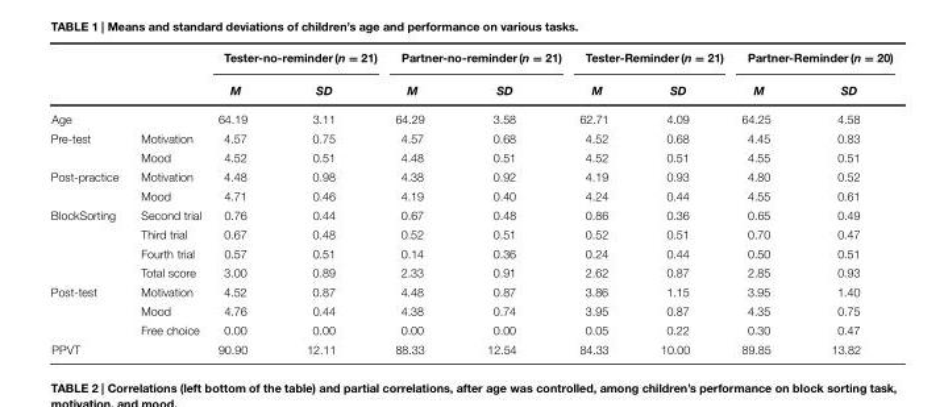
<table><thead><tr><td rowspan="2"></td><td rowspan="2"></td><td colspan="2">Tester-no-reminder(n = 21)</td><td colspan="2">Partner-no-reminder(n = 21)</td><td colspan="2">Tester-Reminder (n = 21)</td><td colspan="2">Partner-Reminder (n = 20)</td></tr><tr><td>M</td><td>SD</td><td>M</td><td>SD</td><td>M</td><td>SD</td><td>M</td><td>SD</td></tr></thead><tbody><tr><td colspan="2">Age</td><td>64.19</td><td>3.11</td><td>64.29</td><td>3.58</td><td>62.71</td><td>4.09</td><td>64.25</td><td>4.58</td></tr><tr><td rowspan="2">Pre-test</td><td>Motivation</td><td>4.57</td><td>0.75</td><td>4.57</td><td>0.68</td><td>4.52</td><td>0.68</td><td>4.45</td><td>0.83</td></tr><tr><td>Mood</td><td>4.52</td><td>0.51</td><td>4.48</td><td>0.51</td><td>4.52</td><td>0.51</td><td>4.55</td><td>0.51</td></tr><tr><td rowspan="2">Post-practice</td><td>Motivation</td><td>4.48</td><td>0.98</td><td>4.38</td><td>0.92</td><td>4.19</td><td>0.93</td><td>4.80</td><td>0.52</td></tr><tr><td>Mood</td><td>4.71</td><td>0.46</td><td>4.19</td><td>0.40</td><td>4.24</td><td>0.44</td><td>4.55</td><td>0.61</td></tr><tr><td rowspan="4">BlockSorting</td><td>Second trial</td><td>0.76</td><td>0.44</td><td>0.67</td><td>0.48</td><td>0.86</td><td>0.36</td><td>0.65</td><td>0.49</td></tr><tr><td>Third trial</td><td>0.67</td><td>0.48</td><td>0.52</td><td>0.51</td><td>0.52</td><td>0.51</td><td>0.70</td><td>0.47</td></tr><tr><td>Fourth trial</td><td>0.57</td><td>0.51</td><td>0.14</td><td>0.36</td><td>0.24</td><td>0.44</td><td>0.50</td><td>0.51</td></tr><tr><td>Total score</td><td>3.00</td><td>0.89</td><td>2.33</td><td>0.91</td><td>2.62</td><td>0.87</td><td>2.85</td><td>0.93</td></tr><tr><td rowspan="3">Post-test</td><td>Motivation</td><td>4.52</td><td>0.87</td><td>4.48</td><td>0.87</td><td>3.86</td><td>1.15</td><td>3.95</td><td>1.40</td></tr><tr><td>Mood</td><td>4.76</td><td>0.44</td><td>4.38</td><td>0.74</td><td>3.95</td><td>0.87</td><td>4.35</td><td>0.75</td></tr><tr><td>Free choice</td><td>0.00</td><td>0.00</td><td>0.00</td><td>0.00</td><td>0.05</td><td>0.22</td><td>0.30</td><td>0.47</td></tr><tr><td colspan="2">PPVT</td><td>90.90</td><td>12.11</td><td>88.33</td><td>12.54</td><td>84.33</td><td>10.00</td><td>89.85</td><td>13.82</td></tr></tbody></table>